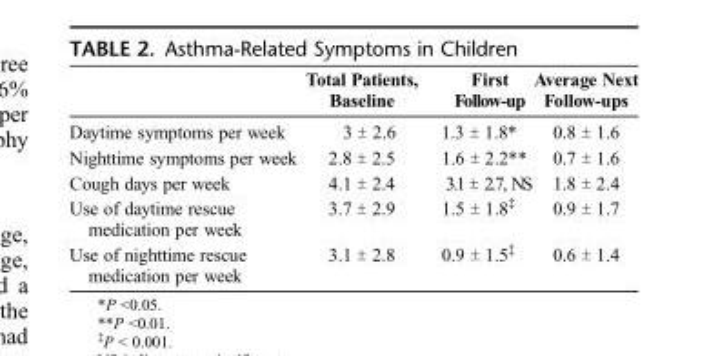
<table><thead><tr><td></td><td>Total Patients, Baseline</td><td>First Follow-up</td><td>Average Next Follow-ups</td></tr></thead><tbody><tr><td>Daytime symptoms per week</td><td>3 ± 2.6</td><td>1.3 ± 1.8*</td><td>0.8 ± 1.6</td></tr><tr><td>Nighttime symptoms per week</td><td>2.8 ± 2.5</td><td>1.6 ± 2.2**</td><td>0.7 ± 1.6</td></tr><tr><td>Cough days per week</td><td>4.1 ± 2.4</td><td>3.1 ± 2.7, NS</td><td>1.8 ± 2.4</td></tr><tr><td>Use of daytime rescue medication per week</td><td>3.7 ± 2.9</td><td>1.5 ± 1.8<sup>‡</sup></td><td>0.9 ± 1.7</td></tr><tr><td>Use of nighttime rescue medication per week</td><td>3.1 ± 2.8</td><td>0.9 ± 1.5<sup>‡</sup></td><td>0.6 ± 1.4</td></tr></tbody></table>